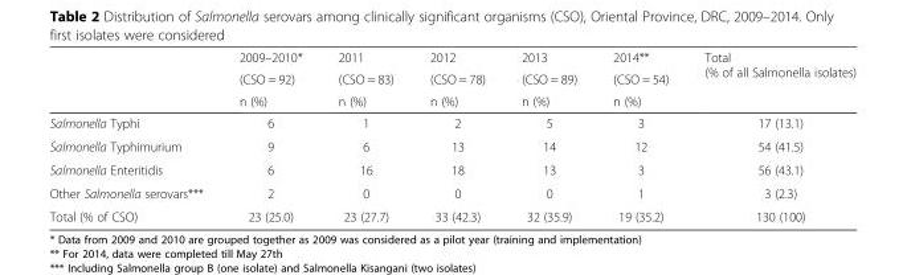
<table><thead><tr><td rowspan="3"></td><td rowspan="3">2009–2010* (CSO = 92) n (%)</td><td rowspan="3">2011 (CSO = 83) n (%)</td><td rowspan="3">2012 (CSO = 78) n (%)</td><td rowspan="3">2013 (CSO = 89) n (%)</td><td rowspan="3">2014** (CSO = 54) n (%)</td><td rowspan="3">Total (% of all Salmonella isolates)</td></tr><tr></tr><tr></tr></thead><tbody><tr><td>Salmonella Typhi</td><td>6</td><td>1</td><td>2</td><td>5</td><td>3</td><td>17 (13.1)</td></tr><tr><td>Salmonella Typhimurium</td><td>9</td><td>6</td><td>13</td><td>14</td><td>12</td><td>54 (41.5)</td></tr><tr><td>Salmonella Enteritidis</td><td>6</td><td>16</td><td>18</td><td>13</td><td>3</td><td>56 (43.1)</td></tr><tr><td>Other Salmonella serovars***</td><td>2</td><td>0</td><td>0</td><td>0</td><td>1</td><td>3 (2.3)</td></tr><tr><td>Total (% of CSO)</td><td>23 (25.0)</td><td>23 (27.7)</td><td>33 (42.3)</td><td>32 (35.9)</td><td>19 (35.2)</td><td>130 (100)</td></tr></tbody></table>